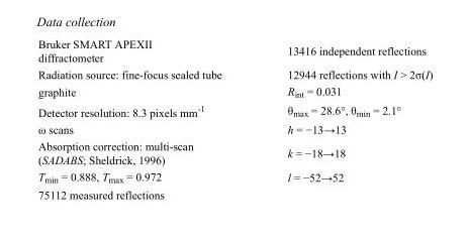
<table><tbody><tr><td>Bruker SMART APEXII diffractometer</td><td>13416 independent reflections</td></tr><tr><td>Radiation source: fine-focus sealed tube</td><td>12944 reflections with I &gt; 2σ(I)</td></tr><tr><td>graphite</td><td>R<sub>int</sub> = 0.031</td></tr><tr><td>Detector resolution: 8.3 pixels mm<sup>-1</sup></td><td>θ<sub>max</sub> = 28.6°, θ<sub>min</sub> = 2.1°</td></tr><tr><td>ω scans</td><td>h = −13→13</td></tr><tr><td>Absorption correction: multi-scan (SADABS; Sheldrick, 1996)</td><td>k = −18→18</td></tr><tr><td>T<sub>min</sub> = 0.888, T<sub>max</sub> = 0.972</td><td>l = −52→52</td></tr><tr><td>75112 measured reflections</td><td></td></tr></tbody></table>